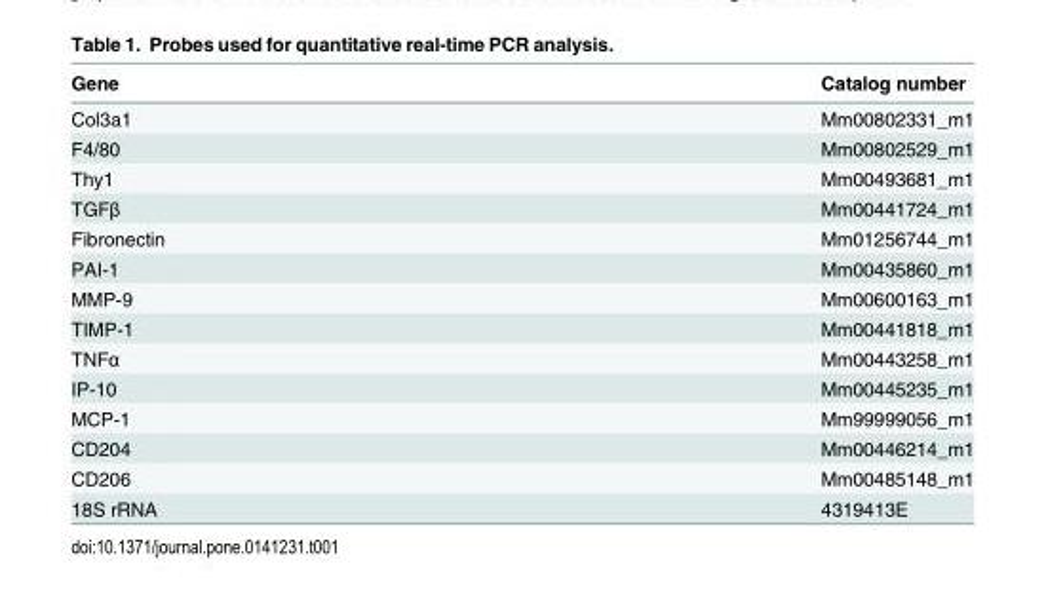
<table><thead><tr><td>Gene</td><td>Catalog number</td></tr></thead><tbody><tr><td>Col3a1</td><td>Mm00802331_m1</td></tr><tr><td>F4/80</td><td>Mm00802529_m1</td></tr><tr><td>Thy1</td><td>Mm00493681_m1</td></tr><tr><td>TGFβ</td><td>Mm00441724_m1</td></tr><tr><td>Fibronectin</td><td>Mm01256744_m1</td></tr><tr><td>PAI-1</td><td>Mm00435860_m1</td></tr><tr><td>MMP-9</td><td>Mm00600163_m1</td></tr><tr><td>TIMP-1</td><td>Mm00441818_m1</td></tr><tr><td>TNFα</td><td>Mm00443258_m1</td></tr><tr><td>IP-10</td><td>Mm00445235_m1</td></tr><tr><td>MCP-1</td><td>Mm99999056_m1</td></tr><tr><td>CD204</td><td>Mm00446214_m1</td></tr><tr><td>CD206</td><td>Mm00485148_m1</td></tr><tr><td>18S rRNA</td><td>4319413E</td></tr></tbody></table>